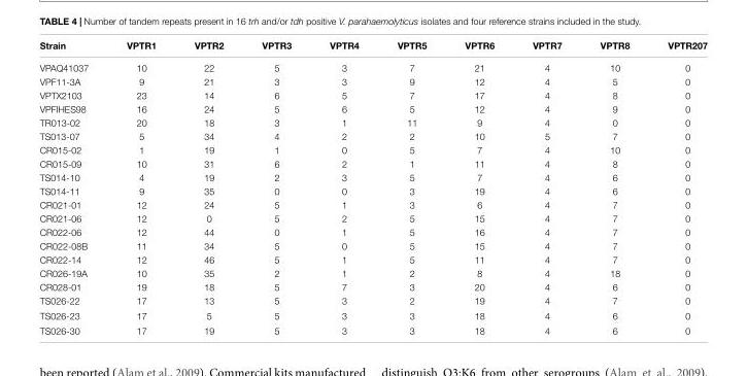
<table><thead><tr><td>Strain</td><td>VPTR1</td><td>VPTR2</td><td>VPTR3</td><td>VPTR4</td><td>VPTR5</td><td>VPTR6</td><td>VPTR7</td><td>VPTR8</td><td>VPTR207</td></tr></thead><tbody><tr><td>VPAQ41037</td><td>10</td><td>22</td><td>5</td><td>3</td><td>7</td><td>21</td><td>4</td><td>10</td><td>0</td></tr><tr><td>VPF11-3A</td><td>9</td><td>21</td><td>3</td><td>3</td><td>9</td><td>12</td><td>4</td><td>5</td><td>0</td></tr><tr><td>VPTX2103</td><td>23</td><td>14</td><td>6</td><td>5</td><td>7</td><td>17</td><td>4</td><td>8</td><td>0</td></tr><tr><td>VPFIHES98</td><td>16</td><td>24</td><td>5</td><td>6</td><td>5</td><td>12</td><td>4</td><td>9</td><td>0</td></tr><tr><td>TR013-02</td><td>20</td><td>18</td><td>3</td><td>1</td><td>11</td><td>9</td><td>4</td><td>0</td><td>0</td></tr><tr><td>TS013-07</td><td>5</td><td>34</td><td>4</td><td>2</td><td>2</td><td>10</td><td>5</td><td>7</td><td>0</td></tr><tr><td>CR015-02</td><td>1</td><td>19</td><td>1</td><td>0</td><td>5</td><td>7</td><td>4</td><td>10</td><td>0</td></tr><tr><td>CR015-09</td><td>10</td><td>31</td><td>6</td><td>2</td><td>1</td><td>11</td><td>4</td><td>8</td><td>0</td></tr><tr><td>TS014-10</td><td>4</td><td>19</td><td>2</td><td>3</td><td>5</td><td>7</td><td>4</td><td>6</td><td>0</td></tr><tr><td>TS014-11</td><td>9</td><td>35</td><td>0</td><td>0</td><td>3</td><td>19</td><td>4</td><td>6</td><td>0</td></tr><tr><td>CR021-01</td><td>12</td><td>24</td><td>5</td><td>1</td><td>3</td><td>6</td><td>4</td><td>7</td><td>0</td></tr><tr><td>CR021-06</td><td>12</td><td>0</td><td>5</td><td>2</td><td>5</td><td>15</td><td>4</td><td>7</td><td>0</td></tr><tr><td>CR022-06</td><td>12</td><td>44</td><td>0</td><td>1</td><td>5</td><td>16</td><td>4</td><td>7</td><td>0</td></tr><tr><td>CR022-08B</td><td>11</td><td>34</td><td>5</td><td>0</td><td>5</td><td>15</td><td>4</td><td>7</td><td>0</td></tr><tr><td>CR022-14</td><td>12</td><td>46</td><td>5</td><td>1</td><td>5</td><td>11</td><td>4</td><td>7</td><td>0</td></tr><tr><td>CR026-19A</td><td>10</td><td>35</td><td>2</td><td>1</td><td>2</td><td>8</td><td>4</td><td>18</td><td>0</td></tr><tr><td>CR028-01</td><td>19</td><td>18</td><td>5</td><td>7</td><td>3</td><td>20</td><td>4</td><td>6</td><td>0</td></tr><tr><td>TS026-22</td><td>17</td><td>13</td><td>5</td><td>3</td><td>2</td><td>19</td><td>4</td><td>7</td><td>0</td></tr><tr><td>TS026-23</td><td>17</td><td>5</td><td>5</td><td>3</td><td>3</td><td>18</td><td>4</td><td>6</td><td>0</td></tr><tr><td>TS026-30</td><td>17</td><td>19</td><td>5</td><td>3</td><td>3</td><td>18</td><td>4</td><td>6</td><td>0</td></tr></tbody></table>